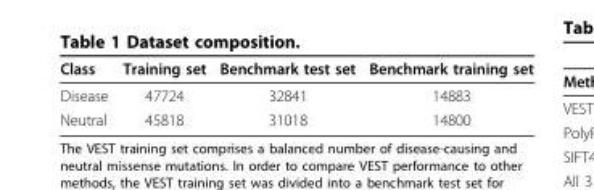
<table><thead><tr><td>Class</td><td>Training set</td><td>Benchmark test set</td><td>Benchmark training set</td></tr></thead><tbody><tr><td>Disease</td><td>47724</td><td>32841</td><td>14883</td></tr><tr><td>Neutral</td><td>45818</td><td>31018</td><td>14800</td></tr></tbody></table>